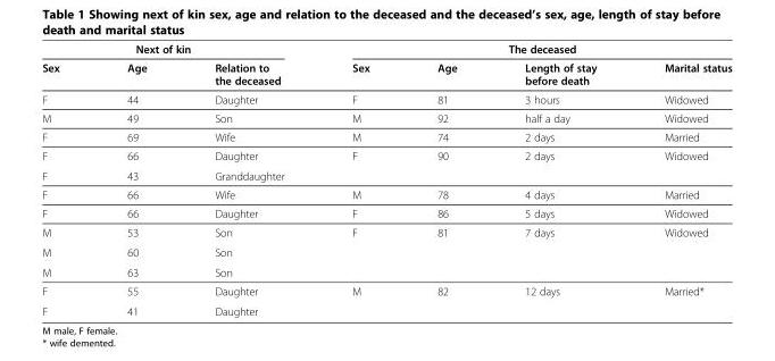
<table><thead><tr><td colspan="3">Next of kin</td><td colspan="4">The deceased</td></tr><tr><td>Sex</td><td>Age</td><td>Relation to the deceased</td><td>Sex</td><td>Age</td><td>Length of stay before death</td><td>Marital status</td></tr></thead><tbody><tr><td>F</td><td>44</td><td>Daughter</td><td>F</td><td>81</td><td>3 hours</td><td>Widowed</td></tr><tr><td>M</td><td>49</td><td>Son</td><td>M</td><td>92</td><td>half a day</td><td>Widowed</td></tr><tr><td>F</td><td>69</td><td>Wife</td><td>M</td><td>74</td><td>2 days</td><td>Married</td></tr><tr><td>F</td><td>66</td><td>Daughter</td><td>F</td><td>90</td><td>2 days</td><td>Widowed</td></tr><tr><td>F</td><td>43</td><td>Granddaughter</td><td></td><td></td><td></td><td></td></tr><tr><td>F</td><td>66</td><td>Wife</td><td>M</td><td>78</td><td>4 days</td><td>Married</td></tr><tr><td>F</td><td>66</td><td>Daughter</td><td>F</td><td>86</td><td>5 days</td><td>Widowed</td></tr><tr><td>M</td><td>53</td><td>Son</td><td>F</td><td>81</td><td>7 days</td><td>Widowed</td></tr><tr><td>M</td><td>60</td><td>Son</td><td></td><td></td><td></td><td></td></tr><tr><td>M</td><td>63</td><td>Son</td><td></td><td></td><td></td><td></td></tr><tr><td>F</td><td>55</td><td>Daughter</td><td>M</td><td>82</td><td>12 days</td><td>Married*</td></tr><tr><td>F</td><td>41</td><td>Daughter</td><td></td><td></td><td></td><td></td></tr></tbody></table>